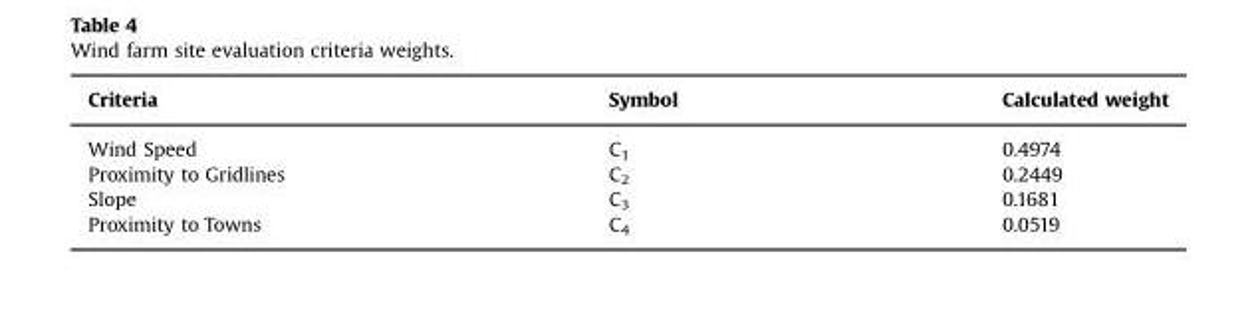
<table><thead><tr><td>Criteria</td><td>Symbol</td><td>Calculated weight</td></tr></thead><tbody><tr><td>Wind Speed</td><td>C<sub>1</sub></td><td>0.4974</td></tr><tr><td>Proximity to Gridlines</td><td>C<sub>2</sub></td><td>0.2449</td></tr><tr><td>Slope</td><td>C<sub>3</sub></td><td>0.1681</td></tr><tr><td>Proximity to Towns</td><td>C<sub>4</sub></td><td>0.0519</td></tr></tbody></table>